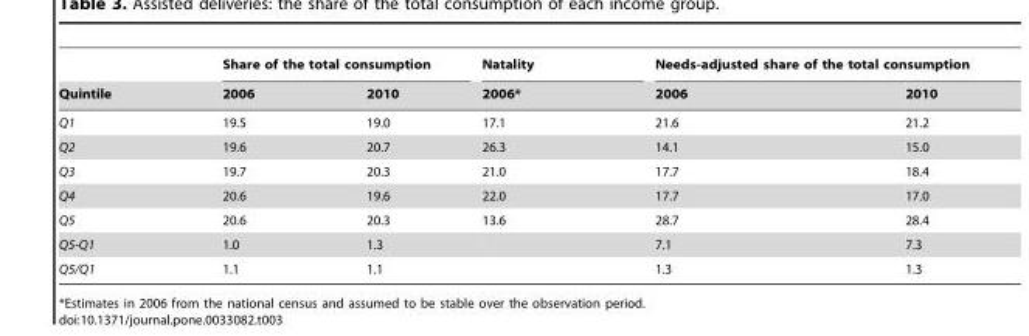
<table><thead><tr><td rowspan="2">Quintile</td><td colspan="2">Share of the total consumption</td><td rowspan="2">Natality 2006*</td><td colspan="2">Needs-adjusted share of the total consumption</td></tr><tr><td>2006</td><td>2010</td><td>2006</td><td>2010</td></tr></thead><tbody><tr><td>Q1</td><td>19.5</td><td>19.0</td><td>17.1</td><td>21.6</td><td>21.2</td></tr><tr><td>Q2</td><td>19.6</td><td>20.7</td><td>26.3</td><td>14.1</td><td>15.0</td></tr><tr><td>Q3</td><td>19.7</td><td>20.3</td><td>21.0</td><td>17.7</td><td>18.4</td></tr><tr><td>Q4</td><td>20.6</td><td>19.6</td><td>22.0</td><td>17.7</td><td>17.0</td></tr><tr><td>Q5</td><td>20.6</td><td>20.3</td><td>13.6</td><td>28.7</td><td>28.4</td></tr><tr><td>Q5-Q1</td><td>1.0</td><td>1.3</td><td></td><td>7.1</td><td>7.3</td></tr><tr><td>Q5/Q1</td><td>1.1</td><td>1.1</td><td></td><td>1.3</td><td>1.3</td></tr></tbody></table>